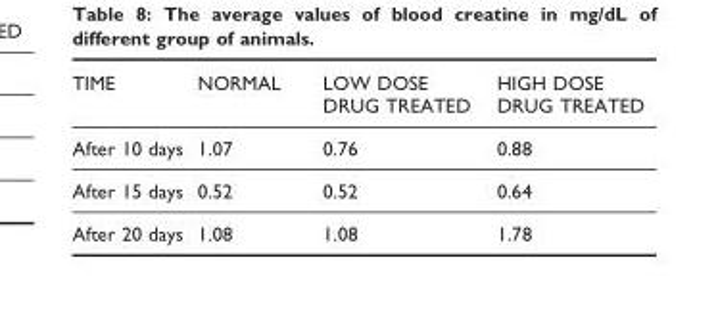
<table><thead><tr><td>TIME</td><td>NORMAL</td><td>LOW DOSE DRUG TREATED</td><td>HIGH DOSE DRUG TREATED</td></tr></thead><tbody><tr><td>After 10 days</td><td>1.07</td><td>0.76</td><td>0.88</td></tr><tr><td>After 15 days</td><td>0.52</td><td>0.52</td><td>0.64</td></tr><tr><td>After 20 days</td><td>1.08</td><td>1.08</td><td>1.78</td></tr></tbody></table>